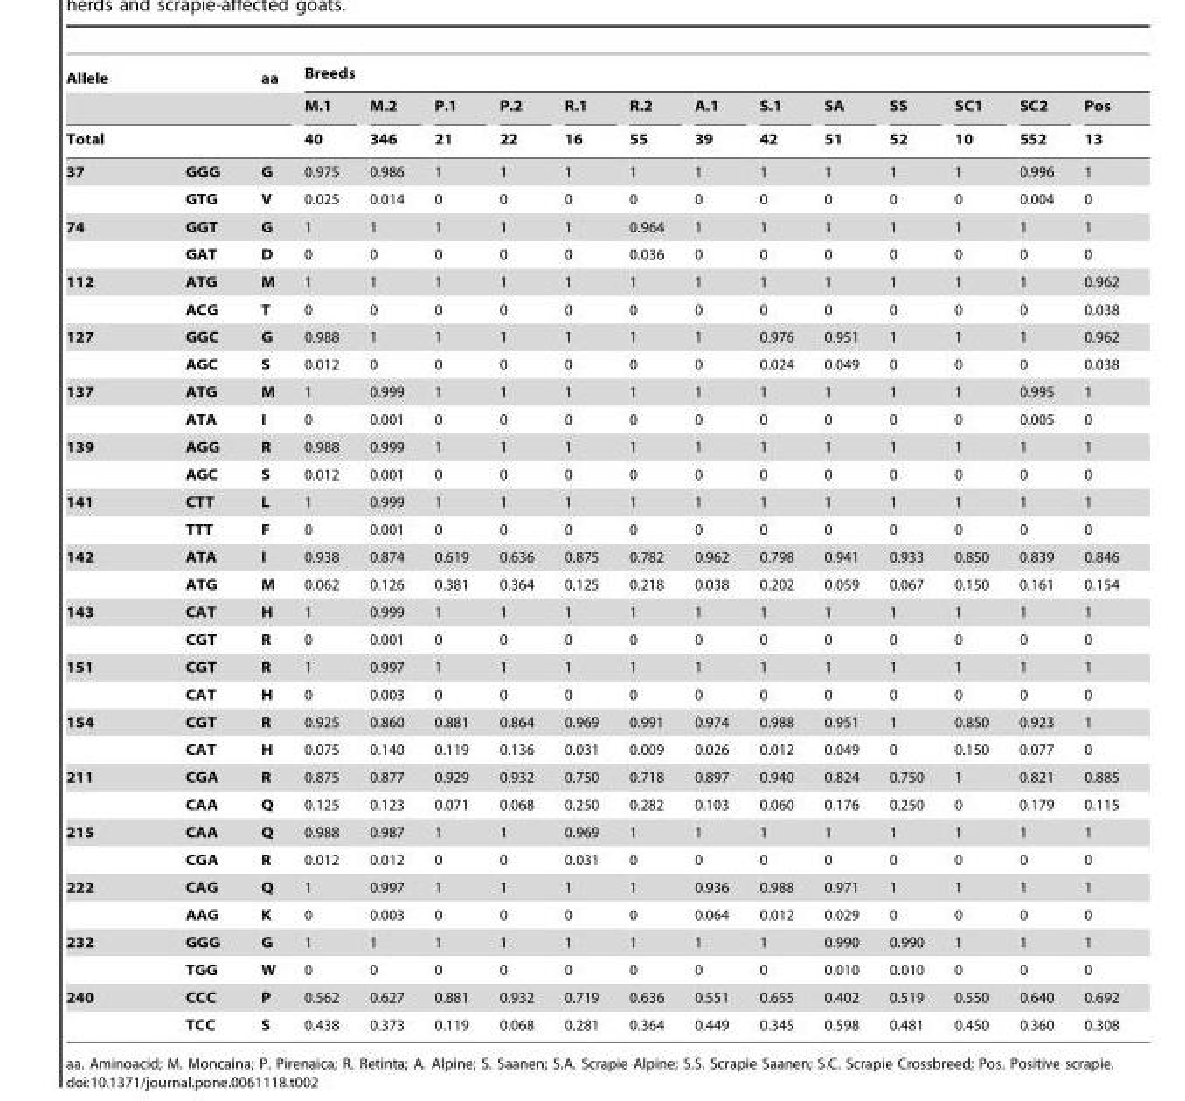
<table><thead><tr><td colspan="2">Allele</td><td rowspan="2">aa</td><td colspan="13">Breeds</td></tr><tr><td></td><td></td><td rowspan="2">M.1 40</td><td rowspan="2">M.2 346</td><td rowspan="2">P.1 21</td><td rowspan="2">P.2 22</td><td rowspan="2">R.1 16</td><td rowspan="2">R.2 55</td><td rowspan="2">A.1 39</td><td rowspan="2">S.1 42</td><td rowspan="2">SA 51</td><td rowspan="2">SS 52</td><td rowspan="2">SC1 10</td><td rowspan="2">SC2 552</td><td rowspan="2">Pos 13</td></tr><tr><td colspan="3">Total</td></tr></thead><tbody><tr><td rowspan="2">37</td><td>GGG</td><td>G</td><td>0.975</td><td>0.986</td><td>1</td><td>1</td><td>1</td><td>1</td><td>1</td><td>1</td><td>1</td><td>1</td><td>1</td><td>0.996</td><td>1</td></tr><tr><td>GTG</td><td>V</td><td>0.025</td><td>0.014</td><td>0</td><td>0</td><td>0</td><td>0</td><td>0</td><td>0</td><td>0</td><td>0</td><td>0</td><td>0.004</td><td>0</td></tr><tr><td rowspan="2">74</td><td>GGT</td><td>G</td><td>1</td><td>1</td><td>1</td><td>1</td><td>1</td><td>0.964</td><td>1</td><td>1</td><td>1</td><td>1</td><td>1</td><td>1</td><td>1</td></tr><tr><td>GAT</td><td>D</td><td>0</td><td>0</td><td>0</td><td>0</td><td>0</td><td>0.036</td><td>0</td><td>0</td><td>0</td><td>0</td><td>0</td><td>0</td><td>0</td></tr><tr><td rowspan="2">112</td><td>ATG</td><td>M</td><td>1</td><td>1</td><td>1</td><td>1</td><td>1</td><td>1</td><td>1</td><td>1</td><td>1</td><td>1</td><td>1</td><td>1</td><td>0.962</td></tr><tr><td>ACG</td><td>T</td><td>0</td><td>0</td><td>0</td><td>0</td><td>0</td><td>0</td><td>0</td><td>0</td><td>0</td><td>0</td><td>0</td><td>0</td><td>0.038</td></tr><tr><td rowspan="2">127</td><td>GGC</td><td>G</td><td>0.988</td><td>1</td><td>1</td><td>1</td><td>1</td><td>1</td><td>1</td><td>0.976</td><td>0.951</td><td>1</td><td>1</td><td>1</td><td>0.962</td></tr><tr><td>AGC</td><td>S</td><td>0.012</td><td>0</td><td>0</td><td>0</td><td>0</td><td>0</td><td>0</td><td>0.024</td><td>0.049</td><td>0</td><td>0</td><td>0</td><td>0.038</td></tr><tr><td rowspan="2">137</td><td>ATG</td><td>M</td><td>1</td><td>0.999</td><td>1</td><td>1</td><td>1</td><td>1</td><td>1</td><td>1</td><td>1</td><td>1</td><td>1</td><td>0.995</td><td>1</td></tr><tr><td>ATA</td><td>I</td><td>0</td><td>0.001</td><td>0</td><td>0</td><td>0</td><td>0</td><td>0</td><td>0</td><td>0</td><td>0</td><td>0</td><td>0.005</td><td>0</td></tr><tr><td rowspan="2">139</td><td>AGG</td><td>R</td><td>0.988</td><td>0.999</td><td>1</td><td>1</td><td>1</td><td>1</td><td>1</td><td>1</td><td>1</td><td>1</td><td>1</td><td>1</td><td>1</td></tr><tr><td>AGC</td><td>S</td><td>0.012</td><td>0.001</td><td>0</td><td>0</td><td>0</td><td>0</td><td>0</td><td>0</td><td>0</td><td>0</td><td>0</td><td>0</td><td>0</td></tr><tr><td rowspan="2">141</td><td>CTT</td><td>L</td><td>1</td><td>0.999</td><td>1</td><td>1</td><td>1</td><td>1</td><td>1</td><td>1</td><td>1</td><td>1</td><td>1</td><td>1</td><td>1</td></tr><tr><td>TTT</td><td>F</td><td>0</td><td>0.001</td><td>0</td><td>0</td><td>0</td><td>0</td><td>0</td><td>0</td><td>0</td><td>0</td><td>0</td><td>0</td><td>0</td></tr><tr><td rowspan="2">142</td><td>ATA</td><td>I</td><td>0.938</td><td>0.874</td><td>0.619</td><td>0.636</td><td>0.875</td><td>0.782</td><td>0.962</td><td>0.798</td><td>0.941</td><td>0.933</td><td>0.850</td><td>0.839</td><td>0.846</td></tr><tr><td>ATG</td><td>M</td><td>0.062</td><td>0.126</td><td>0.381</td><td>0.364</td><td>0.125</td><td>0.218</td><td>0.038</td><td>0.202</td><td>0.059</td><td>0.067</td><td>0.150</td><td>0.161</td><td>0.154</td></tr><tr><td rowspan="2">143</td><td>CAT</td><td>H</td><td>1</td><td>0.999</td><td>1</td><td>1</td><td>1</td><td>1</td><td>1</td><td>1</td><td>1</td><td>1</td><td>1</td><td>1</td><td>1</td></tr><tr><td>CGT</td><td>R</td><td>0</td><td>0.001</td><td>0</td><td>0</td><td>0</td><td>0</td><td>0</td><td>0</td><td>0</td><td>0</td><td>0</td><td>0</td><td>0</td></tr><tr><td rowspan="2">151</td><td>CGT</td><td>R</td><td>1</td><td>0.997</td><td>1</td><td>1</td><td>1</td><td>1</td><td>1</td><td>1</td><td>1</td><td>1</td><td>1</td><td>1</td><td>1</td></tr><tr><td>CAT</td><td>H</td><td>0</td><td>0.003</td><td>0</td><td>0</td><td>0</td><td>0</td><td>0</td><td>0</td><td>0</td><td>0</td><td>0</td><td>0</td><td>0</td></tr><tr><td rowspan="2">154</td><td>CGT</td><td>R</td><td>0.925</td><td>0.860</td><td>0.881</td><td>0.864</td><td>0.969</td><td>0.991</td><td>0.974</td><td>0.988</td><td>0.951</td><td>1</td><td>0.850</td><td>0.923</td><td>1</td></tr><tr><td>CAT</td><td>H</td><td>0.075</td><td>0.140</td><td>0.119</td><td>0.136</td><td>0.031</td><td>0.009</td><td>0.026</td><td>0.012</td><td>0.049</td><td>0</td><td>0.150</td><td>0.077</td><td>0</td></tr><tr><td rowspan="2">211</td><td>CGA</td><td>R</td><td>0.875</td><td>0.877</td><td>0.929</td><td>0.932</td><td>0.750</td><td>0.718</td><td>0.897</td><td>0.940</td><td>0.824</td><td>0.750</td><td>1</td><td>0.821</td><td>0.885</td></tr><tr><td>CAA</td><td>Q</td><td>0.125</td><td>0.123</td><td>0.071</td><td>0.068</td><td>0.250</td><td>0.282</td><td>0.103</td><td>0.060</td><td>0.176</td><td>0.250</td><td>0</td><td>0.179</td><td>0.115</td></tr><tr><td rowspan="2">215</td><td>CAA</td><td>Q</td><td>0.988</td><td>0.987</td><td>1</td><td>1</td><td>0.969</td><td>1</td><td>1</td><td>1</td><td>1</td><td>1</td><td>1</td><td>1</td><td>1</td></tr><tr><td>CGA</td><td>R</td><td>0.012</td><td>0.012</td><td>0</td><td>0</td><td>0.031</td><td>0</td><td>0</td><td>0</td><td>0</td><td>0</td><td>0</td><td>0</td><td>0</td></tr><tr><td rowspan="2">222</td><td>CAG</td><td>Q</td><td>1</td><td>0.997</td><td>1</td><td>1</td><td>1</td><td>1</td><td>0.936</td><td>0.988</td><td>0.971</td><td>1</td><td>1</td><td>1</td><td>1</td></tr><tr><td>AAG</td><td>K</td><td>0</td><td>0.003</td><td>0</td><td>0</td><td>0</td><td>0</td><td>0.064</td><td>0.012</td><td>0.029</td><td>0</td><td>0</td><td>0</td><td>0</td></tr><tr><td rowspan="2">232</td><td>GGG</td><td>G</td><td>1</td><td>1</td><td>1</td><td>1</td><td>1</td><td>1</td><td>1</td><td>1</td><td>0.990</td><td>0.990</td><td>1</td><td>1</td><td>1</td></tr><tr><td>TGG</td><td>W</td><td>0</td><td>0</td><td>0</td><td>0</td><td>0</td><td>0</td><td>0</td><td>0</td><td>0.010</td><td>0.010</td><td>0</td><td>0</td><td>0</td></tr><tr><td rowspan="2">240</td><td>CCC</td><td>P</td><td>0.562</td><td>0.627</td><td>0.881</td><td>0.932</td><td>0.719</td><td>0.636</td><td>0.551</td><td>0.655</td><td>0.402</td><td>0.519</td><td>0.550</td><td>0.640</td><td>0.692</td></tr><tr><td>TCC</td><td>S</td><td>0.438</td><td>0.373</td><td>0.119</td><td>0.068</td><td>0.281</td><td>0.364</td><td>0.449</td><td>0.345</td><td>0.598</td><td>0.481</td><td>0.450</td><td>0.360</td><td>0.308</td></tr></tbody></table>